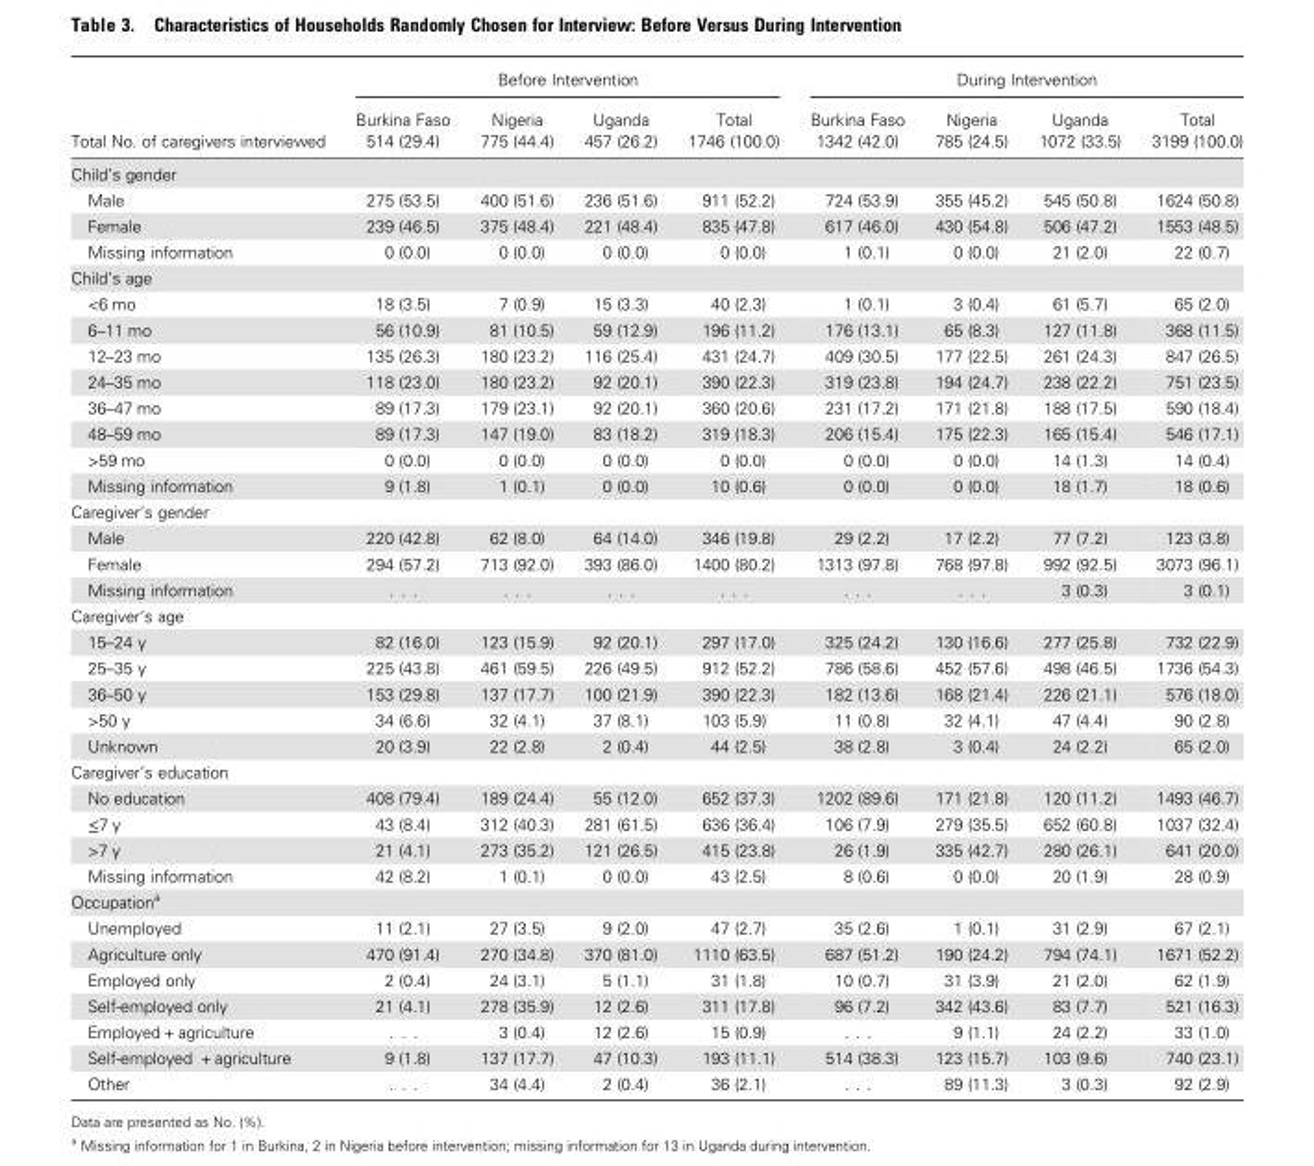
<table><thead><tr><td rowspan="3">Total No. of caregivers interviewed</td><td colspan="4">Before Intervention</td><td colspan="4">During Intervention</td></tr><tr><td rowspan="2">Burkina Faso 514 (29.4)</td><td rowspan="2">Nigeria 775 (44.4)</td><td rowspan="2">Uganda 457 (26.2)</td><td rowspan="2">Total 1746 (100.0)</td><td rowspan="2">Burkina Faso 1342 (42.0)</td><td rowspan="2">Nigeria 785 (24.5)</td><td rowspan="2">Uganda 1072 (33.5)</td><td rowspan="2">Total 3199 (100.0)</td></tr><tr></tr></thead><tbody><tr><td colspan="9">Child’s gender</td></tr><tr><td>Male</td><td>275 (53.5)</td><td>400 (51.6)</td><td>236 (51.6)</td><td>911 (52.2)</td><td>724 (53.9)</td><td>355 (45.2)</td><td>545 (50.8)</td><td>1624 (50.8)</td></tr><tr><td>Female</td><td>239 (46.5)</td><td>375 (48.4)</td><td>221 (48.4)</td><td>835 (47.8)</td><td>617 (46.0)</td><td>430 (54.8)</td><td>506 (47.2)</td><td>1553 (48.5)</td></tr><tr><td>Missing information</td><td>0 (0.0)</td><td>0 (0.0)</td><td>0 (0.0)</td><td>0 (0.0)</td><td>1 (0.1)</td><td>0 (0.0)</td><td>21 (2.0)</td><td>22 (0.7)</td></tr><tr><td colspan="9">Child’s age</td></tr><tr><td>&lt;6 mo</td><td>18 (3.5)</td><td>7 (0.9)</td><td>15 (3.3)</td><td>40 (2.3)</td><td>1 (0.1)</td><td>3 (0.4)</td><td>61 (5.7)</td><td>65 (2.0)</td></tr><tr><td>6–11 mo</td><td>56 (10.9)</td><td>81 (10.5)</td><td>59 (12.9)</td><td>196 (11.2)</td><td>176 (13.1)</td><td>65 (8.3)</td><td>127 (11.8)</td><td>368 (11.5)</td></tr><tr><td>12–23 mo</td><td>135 (26.3)</td><td>180 (23.2)</td><td>116 (25.4)</td><td>431 (24.7)</td><td>409 (30.5)</td><td>177 (22.5)</td><td>261 (24.3)</td><td>847 (26.5)</td></tr><tr><td>24–35 mo</td><td>118 (23.0)</td><td>180 (23.2)</td><td>92 (20.1)</td><td>390 (22.3)</td><td>319 (23.8)</td><td>194 (24.7)</td><td>238 (22.2)</td><td>751 (23.5)</td></tr><tr><td>36–47 mo</td><td>89 (17.3)</td><td>179 (23.1)</td><td>92 (20.1)</td><td>360 (20.6)</td><td>231 (17.2)</td><td>171 (21.8)</td><td>188 (17.5)</td><td>590 (18.4)</td></tr><tr><td>48–59 mo</td><td>89 (17.3)</td><td>147 (19.0)</td><td>83 (18.2)</td><td>319 (18.3)</td><td>206 (15.4)</td><td>175 (22.3)</td><td>165 (15.4)</td><td>546 (17.1)</td></tr><tr><td>&gt;59 mo</td><td>0 (0.0)</td><td>0 (0.0)</td><td>0 (0.0)</td><td>0 (0.0)</td><td>0 (0.0)</td><td>0 (0.0)</td><td>14 (1.3)</td><td>14 (0.4)</td></tr><tr><td>Missing information</td><td>9 (1.8)</td><td>1 (0.1)</td><td>0 (0.0)</td><td>10 (0.6)</td><td>0 (0.0)</td><td>0 (0.0)</td><td>18 (1.7)</td><td>18 (0.6)</td></tr><tr><td colspan="9">Caregiver’s gender</td></tr><tr><td>Male</td><td>220 (42.8)</td><td>62 (8.0)</td><td>64 (14.0)</td><td>346 (19.8)</td><td>29 (2.2)</td><td>17 (2.2)</td><td>77 (7.2)</td><td>123 (3.8)</td></tr><tr><td>Female</td><td>294 (57.2)</td><td>713 (92.0)</td><td>393 (86.0)</td><td>1400 (80.2)</td><td>1313 (97.8)</td><td>768 (97.8)</td><td>992 (92.5)</td><td>3073 (96.1)</td></tr><tr><td>Missing information</td><td>. . .</td><td>. . .</td><td>. . .</td><td>. . .</td><td>. . .</td><td>. . .</td><td>3 (0.3)</td><td>3 (0.1)</td></tr><tr><td colspan="9">Caregiver’s age</td></tr><tr><td>15–24 y</td><td>82 (16.0)</td><td>123 (15.9)</td><td>92 (20.1)</td><td>297 (17.0)</td><td>325 (24.2)</td><td>130 (16.6)</td><td>277 (25.8)</td><td>732 (22.9)</td></tr><tr><td>25–35 y</td><td>225 (43.8)</td><td>461 (59.5)</td><td>226 (49.5)</td><td>912 (52.2)</td><td>786 (58.6)</td><td>452 (57.6)</td><td>498 (46.5)</td><td>1736 (54.3)</td></tr><tr><td>36–50 y</td><td>153 (29.8)</td><td>137 (17.7)</td><td>100 (21.9)</td><td>390 (22.3)</td><td>182 (13.6)</td><td>168 (21.4)</td><td>226 (21.1)</td><td>576 (18.0)</td></tr><tr><td>&gt;50 y</td><td>34 (6.6)</td><td>32 (4.1)</td><td>37 (8.1)</td><td>103 (5.9)</td><td>11 (0.8)</td><td>32 (4.1)</td><td>47 (4.4)</td><td>90 (2.8)</td></tr><tr><td>Unknown</td><td>20 (3.9)</td><td>22 (2.8)</td><td>2 (0.4)</td><td>44 (2.5)</td><td>38 (2.8)</td><td>3 (0.4)</td><td>24 (2.2)</td><td>65 (2.0)</td></tr><tr><td colspan="9">Caregiver’s education</td></tr><tr><td>No education</td><td>408 (79.4)</td><td>189 (24.4)</td><td>55 (12.0)</td><td>652 (37.3)</td><td>1202 (89.6)</td><td>171 (21.8)</td><td>120 (11.2)</td><td>1493 (46.7)</td></tr><tr><td>≤7 y</td><td>43 (8.4)</td><td>312 (40.3)</td><td>281 (61.5)</td><td>636 (36.4)</td><td>106 (7.9)</td><td>279 (35.5)</td><td>652 (60.8)</td><td>1037 (32.4)</td></tr><tr><td>&gt;7 y</td><td>21 (4.1)</td><td>273 (35.2)</td><td>121 (26.5)</td><td>415 (23.8)</td><td>26 (1.9)</td><td>335 (42.7)</td><td>280 (26.1)</td><td>641 (20.0)</td></tr><tr><td>Missing information</td><td>42 (8.2)</td><td>1 (0.1)</td><td>0 (0.0)</td><td>43 (2.5)</td><td>8 (0.6)</td><td>0 (0.0)</td><td>20 (1.9)</td><td>28 (0.9)</td></tr><tr><td colspan="9">Occupation<sup>a</sup></td></tr><tr><td>Unemployed</td><td>11 (2.1)</td><td>27 (3.5)</td><td>9 (2.0)</td><td>47 (2.7)</td><td>35 (2.6)</td><td>1 (0.1)</td><td>31 (2.9)</td><td>67 (2.1)</td></tr><tr><td>Agriculture only</td><td>470 (91.4)</td><td>270 (34.8)</td><td>370 (81.0)</td><td>1110 (63.5)</td><td>687 (51.2)</td><td>190 (24.2)</td><td>794 (74.1)</td><td>1671 (52.2)</td></tr><tr><td>Employed only</td><td>2 (0.4)</td><td>24 (3.1)</td><td>5 (1.1)</td><td>31 (1.8)</td><td>10 (0.7)</td><td>31 (3.9)</td><td>21 (2.0)</td><td>62 (1.9)</td></tr><tr><td>Self-employed only</td><td>21 (4.1)</td><td>278 (35.9)</td><td>12 (2.6)</td><td>311 (17.8)</td><td>96 (7.2)</td><td>342 (43.6)</td><td>83 (7.7)</td><td>521 (16.3)</td></tr><tr><td>Employed + agriculture</td><td>. . .</td><td>3 (0.4)</td><td>12 (2.6)</td><td>15 (0.9)</td><td>. . .</td><td>9 (1.1)</td><td>24 (2.2)</td><td>33 (1.0)</td></tr><tr><td>Self-employed + agriculture</td><td>9 (1.8)</td><td>137 (17.7)</td><td>47 (10.3)</td><td>193 (11.1)</td><td>514 (38.3)</td><td>123 (15.7)</td><td>103 (9.6)</td><td>740 (23.1)</td></tr><tr><td>Other</td><td>. . .</td><td>34 (4.4)</td><td>2 (0.4)</td><td>36 (2.1)</td><td>. . .</td><td>89 (11.3)</td><td>3 (0.3)</td><td>92 (2.9)</td></tr></tbody></table>